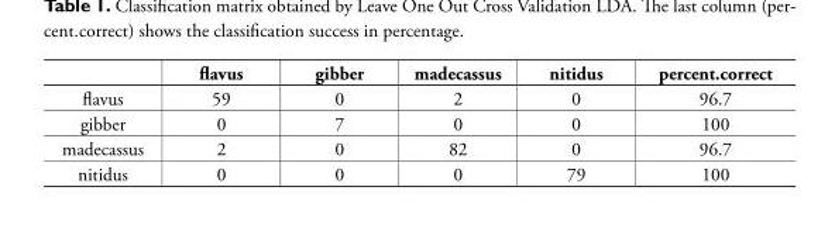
<table><thead><tr><td></td><td>flavus</td><td>gibber</td><td>madecassus</td><td>nitidus</td><td>percent.correct</td></tr></thead><tbody><tr><td>flavus</td><td>59</td><td>0</td><td>2</td><td>0</td><td>96.7</td></tr><tr><td>gibber</td><td>0</td><td>7</td><td>0</td><td>0</td><td>100</td></tr><tr><td>madecassus</td><td>2</td><td>0</td><td>82</td><td>0</td><td>96.7</td></tr><tr><td>nitidus</td><td>0</td><td>0</td><td>0</td><td>79</td><td>100</td></tr></tbody></table>